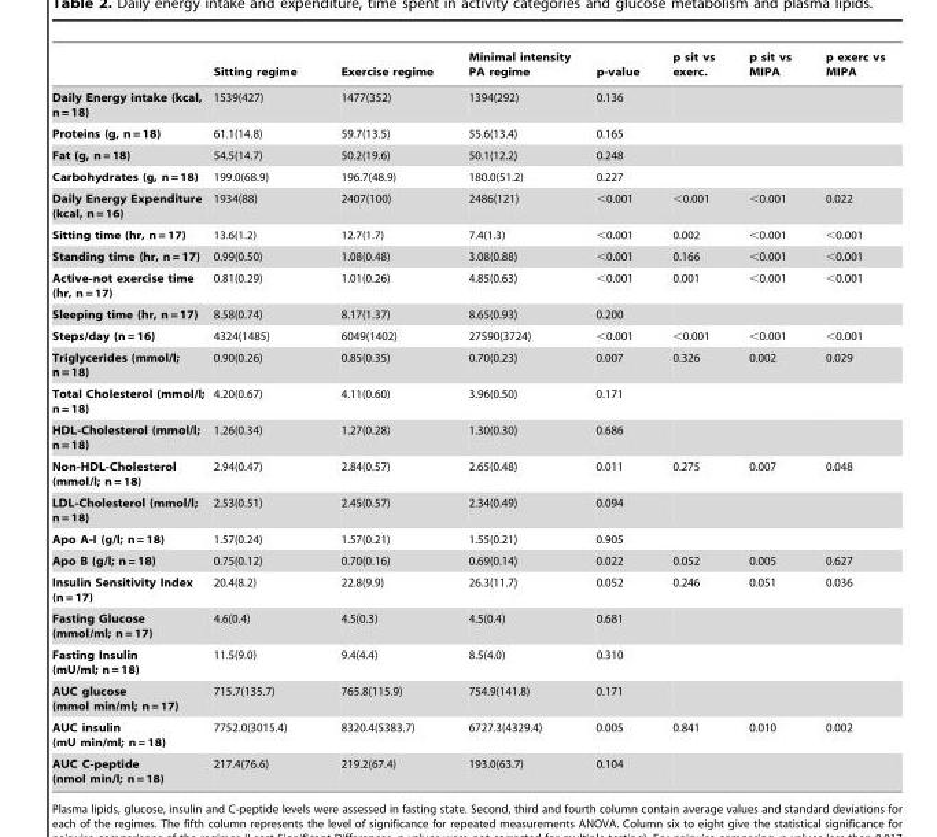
<table><thead><tr><td></td><td>Sitting regime</td><td>Exercise regime</td><td>Minimal intensity PA regime</td><td>p-value</td><td>p sit vs exerc.</td><td>p sit vs MIPA</td><td>p exerc vs MIPA</td></tr></thead><tbody><tr><td>Daily Energy intake (kcal, n = 18)</td><td>1539(427)</td><td>1477(352)</td><td>1394(292)</td><td>0.136</td><td></td><td></td><td></td></tr><tr><td>Proteins (g, n = 18)</td><td>61.1(14.8)</td><td>59.7(13.5)</td><td>55.6(13.4)</td><td>0.165</td><td></td><td></td><td></td></tr><tr><td>Fat (g, n = 18)</td><td>54.5(14.7)</td><td>50.2(19.6)</td><td>50.1(12.2)</td><td>0.248</td><td></td><td></td><td></td></tr><tr><td>Carbohydrates (g, n = 18)</td><td>199.0(68.9)</td><td>196.7(48.9)</td><td>180.0(51.2)</td><td>0.227</td><td></td><td></td><td></td></tr><tr><td>Daily Energy Expenditure (kcal, n = 16)</td><td>1934(88)</td><td>2407(100)</td><td>2486(121)</td><td>&lt;0.001</td><td>&lt;0.001</td><td>&lt;0.001</td><td>0.022</td></tr><tr><td>Sitting time (hr, n = 17)</td><td>13.6(1.2)</td><td>12.7(1.7)</td><td>7.4(1.3)</td><td>&lt;0.001</td><td>0.002</td><td>&lt;0.001</td><td>&lt;0.001</td></tr><tr><td>Standing time (hr, n = 17)</td><td>0.99(0.50)</td><td>1.08(0.48)</td><td>3.08(0.88)</td><td>&lt;0.001</td><td>0.166</td><td>&lt;0.001</td><td>&lt;0.001</td></tr><tr><td>Active-not exercise time (hr, n = 17)</td><td>0.81(0.29)</td><td>1.01(0.26)</td><td>4.85(0.63)</td><td>&lt;0.001</td><td>0.001</td><td>&lt;0.001</td><td>&lt;0.001</td></tr><tr><td>Sleeping time (hr, n = 17)</td><td>8.58(0.74)</td><td>8.17(1.37)</td><td>8.65(0.93)</td><td>0.200</td><td></td><td></td><td></td></tr><tr><td>Steps/day (n = 16)</td><td>4324(1485)</td><td>6049(1402)</td><td>27590(3724)</td><td>&lt;0.001</td><td>&lt;0.001</td><td>&lt;0.001</td><td>&lt;0.001</td></tr><tr><td>Triglycerides (mmol/l; n = 18)</td><td>0.90(0.26)</td><td>0.85(0.35)</td><td>0.70(0.23)</td><td>0.007</td><td>0.326</td><td>0.002</td><td>0.029</td></tr><tr><td>Total Cholesterol (mmol/l; n = 18)</td><td>4.20(0.67)</td><td>4.11(0.60)</td><td>3.96(0.50)</td><td>0.171</td><td></td><td></td><td></td></tr><tr><td>HDL-Cholesterol (mmol/l; n = 18)</td><td>1.26(0.34)</td><td>1.27(0.28)</td><td>1.30(0.30)</td><td>0.686</td><td></td><td></td><td></td></tr><tr><td>Non-HDL-Cholesterol (mmol/l; n = 18)</td><td>2.94(0.47)</td><td>2.84(0.57)</td><td>2.65(0.48)</td><td>0.011</td><td>0.275</td><td>0.007</td><td>0.048</td></tr><tr><td>LDL-Cholesterol (mmol/l; n = 18)</td><td>2.53(0.51)</td><td>2.45(0.57)</td><td>2.34(0.49)</td><td>0.094</td><td></td><td></td><td></td></tr><tr><td>Apo A-I (g/l; n = 18)</td><td>1.57(0.24)</td><td>1.57(0.21)</td><td>1.55(0.21)</td><td>0.905</td><td></td><td></td><td></td></tr><tr><td>Apo B (g/l; n = 18)</td><td>0.75(0.12)</td><td>0.70(0.16)</td><td>0.69(0.14)</td><td>0.022</td><td>0.052</td><td>0.005</td><td>0.627</td></tr><tr><td>Insulin Sensitivity Index (n = 17)</td><td>20.4(8.2)</td><td>22.8(9.9)</td><td>26.3(11.7)</td><td>0.052</td><td>0.246</td><td>0.051</td><td>0.036</td></tr><tr><td>Fasting Glucose (mmol/ml; n = 17)</td><td>4.6(0.4)</td><td>4.5(0.3)</td><td>4.5(0.4)</td><td>0.681</td><td></td><td></td><td></td></tr><tr><td>Fasting Insulin (mU/ml; n = 18)</td><td>11.5(9.0)</td><td>9.4(4.4)</td><td>8.5(4.0)</td><td>0.310</td><td></td><td></td><td></td></tr><tr><td>AUC glucose (mmol min/ml; n = 17)</td><td>715.7(135.7)</td><td>765.8(115.9)</td><td>754.9(141.8)</td><td>0.171</td><td></td><td></td><td></td></tr><tr><td>AUC insulin (mU min/ml; n = 18)</td><td>7752.0(3015.4)</td><td>8320.4(5383.7)</td><td>6727.3(4329.4)</td><td>0.005</td><td>0.841</td><td>0.010</td><td>0.002</td></tr><tr><td>AUC C-peptide (nmol min/l; n = 18)</td><td>217.4(76.6)</td><td>219.2(67.4)</td><td>193.0(63.7)</td><td>0.104</td><td></td><td></td><td></td></tr></tbody></table>